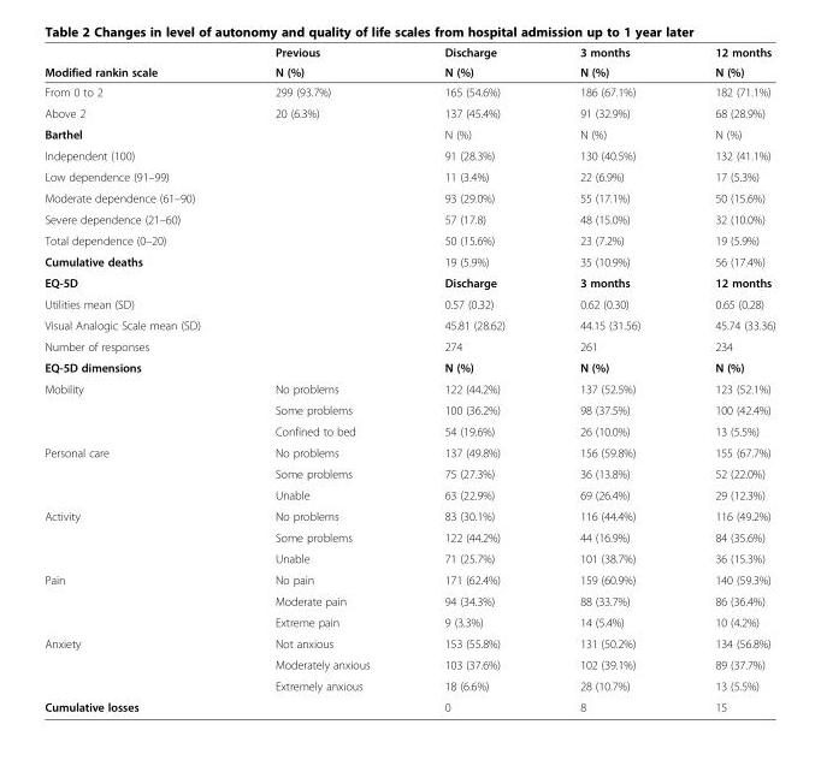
<table><thead><tr><td rowspan="2">Modified rankin scale</td><td rowspan="2">Previous N (%)</td><td rowspan="2">Discharge N (%)</td><td rowspan="2">3 months N (%)</td><td rowspan="2">12 months N (%)</td></tr><tr></tr></thead><tbody><tr><td>From 0 to 2</td><td>299 (93.7%)</td><td>165 (54.6%)</td><td>186 (67.1%)</td><td>182 (71.1%)</td></tr><tr><td>Above 2</td><td>20 (6.3%)</td><td>137 (45.4%)</td><td>91 (32.9%)</td><td>68 (28.9%)</td></tr><tr><td>Barthel</td><td></td><td>N (%)</td><td>N (%)</td><td>N (%)</td></tr><tr><td colspan="2">Independent (100)</td><td>91 (28.3%)</td><td>130 (40.5%)</td><td>132 (41.1%)</td></tr><tr><td colspan="2">Low dependence (91–99)</td><td>11 (3.4%)</td><td>22 (6.9%)</td><td>17 (5.3%)</td></tr><tr><td colspan="2">Moderate dependence (61–90)</td><td>93 (29.0%)</td><td>55 (17.1%)</td><td>50 (15.6%)</td></tr><tr><td colspan="2">Severe dependence (21–60)</td><td>57 (17.8)</td><td>48 (15.0%)</td><td>32 (10.0%)</td></tr><tr><td colspan="2">Total dependence (0–20)</td><td>50 (15.6%)</td><td>23 (7.2%)</td><td>19 (5.9%)</td></tr><tr><td colspan="2">Cumulative deaths</td><td>19 (5.9%)</td><td>35 (10.9%)</td><td>56 (17.4%)</td></tr><tr><td>EQ-5D</td><td></td><td>Discharge</td><td>3 months</td><td>12 months</td></tr><tr><td>Utilities mean (SD)</td><td></td><td>0.57 (0.32)</td><td>0.62 (0.30)</td><td>0.65 (0.28)</td></tr><tr><td>Visual Analogic Scale mean (SD)</td><td></td><td>45.81 (28.62)</td><td>44.15 (31.56)</td><td>45.74 (33.36)</td></tr><tr><td>Number of responses</td><td></td><td>274</td><td>261</td><td>234</td></tr><tr><td>EQ-5D dimensions</td><td></td><td>N (%)</td><td>N (%)</td><td>N (%)</td></tr><tr><td rowspan="3">Mobility</td><td>No problems</td><td>122 (44.2%)</td><td>137 (52.5%)</td><td>123 (52.1%)</td></tr><tr><td>Some problems</td><td>100 (36.2%)</td><td>98 (37.5%)</td><td>100 (42.4%)</td></tr><tr><td>Confined to bed</td><td>54 (19.6%)</td><td>26 (10.0%)</td><td>13 (5.5%)</td></tr><tr><td rowspan="3">Personal care</td><td>No problems</td><td>137 (49.8%)</td><td>156 (59.8%)</td><td>155 (67.7%)</td></tr><tr><td>Some problems</td><td>75 (27.3%)</td><td>36 (13.8%)</td><td>52 (22.0%)</td></tr><tr><td>Unable</td><td>63 (22.9%)</td><td>69 (26.4%)</td><td>29 (12.3%)</td></tr><tr><td rowspan="3">Activity</td><td>No problems</td><td>83 (30.1%)</td><td>116 (44.4%)</td><td>116 (49.2%)</td></tr><tr><td>Some problems</td><td>122 (44.2%)</td><td>44 (16.9%)</td><td>84 (35.6%)</td></tr><tr><td>Unable</td><td>71 (25.7%)</td><td>101 (38.7%)</td><td>36 (15.3%)</td></tr><tr><td rowspan="3">Pain</td><td>No pain</td><td>171 (62.4%)</td><td>159 (60.9%)</td><td>140 (59.3%)</td></tr><tr><td>Moderate pain</td><td>94 (34.3%)</td><td>88 (33.7%)</td><td>86 (36.4%)</td></tr><tr><td>Extreme pain</td><td>9 (3.3%)</td><td>14 (5.4%)</td><td>10 (4.2%)</td></tr><tr><td rowspan="3">Anxiety</td><td>Not anxious</td><td>153 (55.8%)</td><td>131 (50.2%)</td><td>134 (56.8%)</td></tr><tr><td>Moderately anxious</td><td>103 (37.6%)</td><td>102 (39.1%)</td><td>89 (37.7%)</td></tr><tr><td>Extremely anxious</td><td>18 (6.6%)</td><td>28 (10.7%)</td><td>13 (5.5%)</td></tr><tr><td colspan="2">Cumulative losses</td><td>0</td><td>8</td><td>15</td></tr></tbody></table>